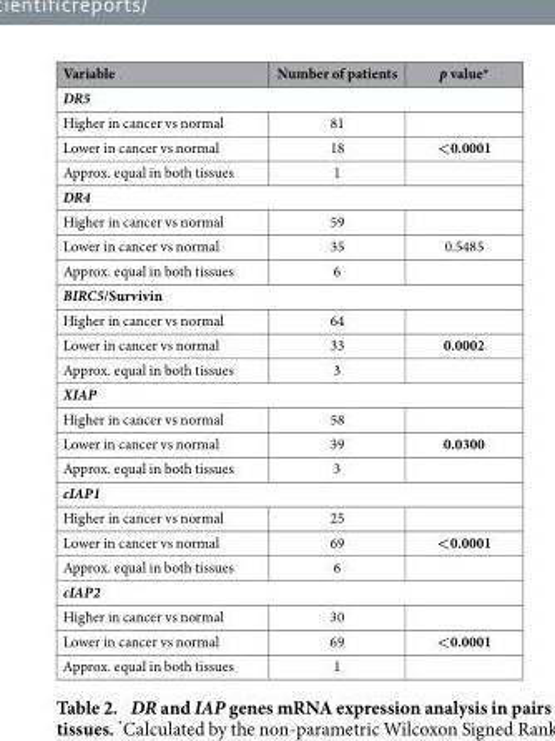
<table><thead><tr><td>Variable</td><td>Number of patients</td><td>p value*</td></tr></thead><tbody><tr><td colspan="3">DR5</td></tr><tr><td>Higher in cancer vs normal</td><td>81</td><td></td></tr><tr><td>Lower in cancer vs normal</td><td>18</td><td>&lt;0.0001</td></tr><tr><td>Approx. equal in both tissues</td><td>1</td><td></td></tr><tr><td colspan="3">DR4</td></tr><tr><td>Higher in cancer vs normal</td><td>59</td><td></td></tr><tr><td>Lower in cancer vs normal</td><td>35</td><td>0.5485</td></tr><tr><td>Approx. equal in both tissues</td><td>6</td><td></td></tr><tr><td colspan="3">BIRC5/Survivin</td></tr><tr><td>Higher in cancer vs normal</td><td>64</td><td></td></tr><tr><td>Lower in cancer vs normal</td><td>33</td><td>0.0002</td></tr><tr><td>Approx. equal in both tissues</td><td>3</td><td></td></tr><tr><td colspan="3">XIAP</td></tr><tr><td>Higher in cancer vs normal</td><td>58</td><td></td></tr><tr><td>Lower in cancer vs normal</td><td>39</td><td>0.0300</td></tr><tr><td>Approx. equal in both tissues</td><td>3</td><td></td></tr><tr><td colspan="3">cIAP1</td></tr><tr><td>Higher in cancer vs normal</td><td>25</td><td></td></tr><tr><td>Lower in cancer vs normal</td><td>69</td><td>&lt;0.0001</td></tr><tr><td>Approx. equal in both tissues</td><td>6</td><td></td></tr><tr><td colspan="3">cIAP2</td></tr><tr><td>Higher in cancer vs normal</td><td>30</td><td></td></tr><tr><td>Lower in cancer vs normal</td><td>69</td><td>&lt;0.0001</td></tr><tr><td>Approx. equal in both tissues</td><td>1</td><td></td></tr></tbody></table>